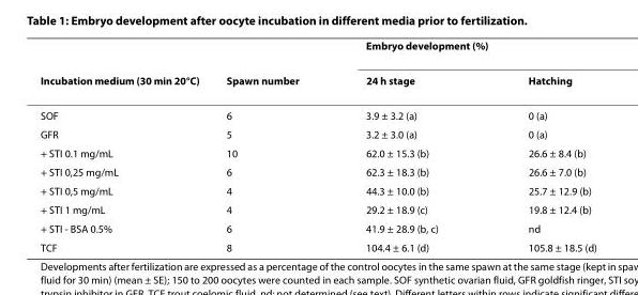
<table><thead><tr><td rowspan="2">Incubation medium (30 min 20°C)</td><td rowspan="2">Spawn number</td><td colspan="2">Embryo development (%)</td></tr><tr><td>24 h stage</td><td>Hatching</td></tr></thead><tbody><tr><td>SOF</td><td>6</td><td>3.9 ± 3.2 (a)</td><td>0 (a)</td></tr><tr><td>GFR</td><td>5</td><td>3.2 ± 3.0 (a)</td><td>0 (a)</td></tr><tr><td>+ STI 0.1 mg/mL</td><td>10</td><td>62.0 ± 15.3 (b)</td><td>26.6 ± 8.4 (b)</td></tr><tr><td>+ STI 0,25 mg/mL</td><td>6</td><td>62.3 ± 18.3 (b)</td><td>26.6 ± 7.0 (b)</td></tr><tr><td>+ STI 0,5 mg/mL</td><td>4</td><td>44.3 ± 10.0 (b)</td><td>25.7 ± 12.9 (b)</td></tr><tr><td>+ STI 1 mg/mL</td><td>4</td><td>29.2 ± 18.9 (c)</td><td>19.8 ± 12.4 (b)</td></tr><tr><td>+ STI - BSA 0.5%</td><td>6</td><td>41.9 ± 28.9 (b, c)</td><td>nd</td></tr><tr><td>TCF</td><td>8</td><td>104.4 ± 6.1 (d)</td><td>105.8 ± 18.5 (d)</td></tr></tbody></table>